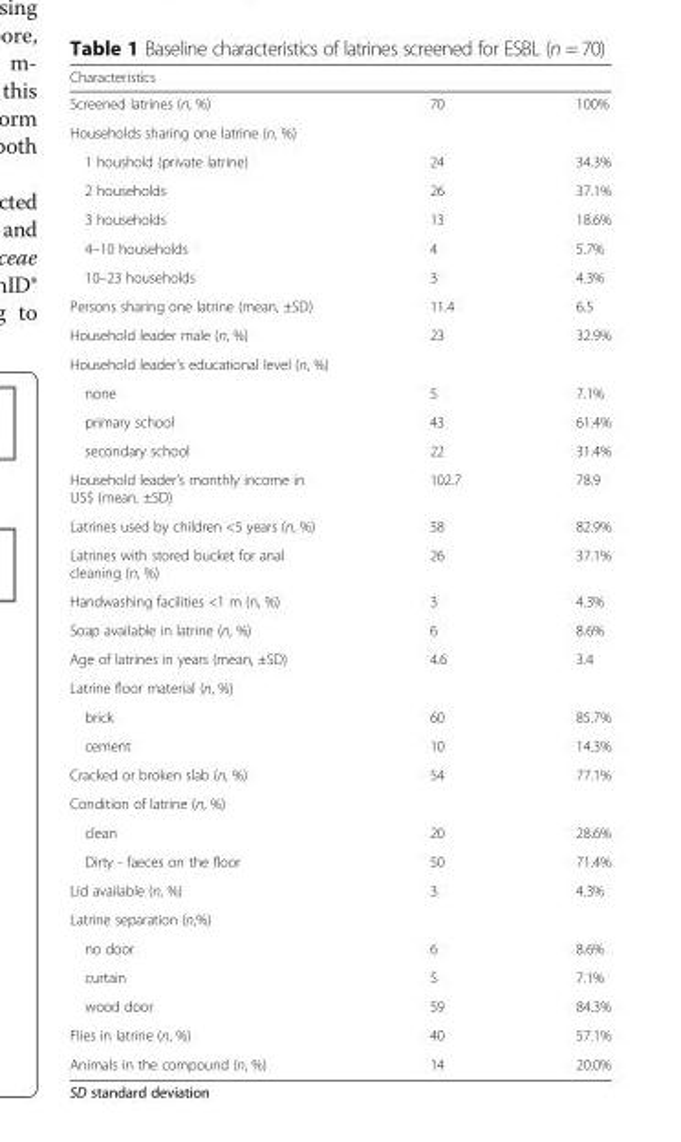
<table><thead><tr><td>Characteristics</td><td></td><td></td></tr></thead><tbody><tr><td>Screened latrines (n, %)</td><td>70</td><td>100%</td></tr><tr><td colspan="3">Households sharing one latrine (n, %)</td></tr><tr><td>1 houshold (private latrine)</td><td>24</td><td>34.3%</td></tr><tr><td>2 households</td><td>26</td><td>37.1%</td></tr><tr><td>3 households</td><td>13</td><td>18.6%</td></tr><tr><td>4–10 households</td><td>4</td><td>5.7%</td></tr><tr><td>10–23 households</td><td>3</td><td>4.3%</td></tr><tr><td>Persons sharing one latrine (mean, ±SD)</td><td>11.4</td><td>6.5</td></tr><tr><td>Household leader male (n, %)</td><td>23</td><td>32.9%</td></tr><tr><td colspan="3">Household leader’s educational level (n, %)</td></tr><tr><td>none</td><td>5</td><td>7.1%</td></tr><tr><td>primary school</td><td>43</td><td>61.4%</td></tr><tr><td>secondary school</td><td>22</td><td>31.4%</td></tr><tr><td>Household leader’s monthly income in US$ (mean, ±SD)</td><td>102.7</td><td>78.9</td></tr><tr><td>Latrines used by children &lt;5 years (n, %)</td><td>58</td><td>82.9%</td></tr><tr><td>Latrines with stored bucket for anal cleaning (n, %)</td><td>26</td><td>37.1%</td></tr><tr><td>Handwashing facilities &lt;1 m (n, %)</td><td>3</td><td>4.3%</td></tr><tr><td>Soap available in latrine (n, %)</td><td>6</td><td>8.6%</td></tr><tr><td>Age of latrines in years (mean, ±SD)</td><td>4.6</td><td>3.4</td></tr><tr><td colspan="3">Latrine floor material (n, %)</td></tr><tr><td>brick</td><td>60</td><td>85.7%</td></tr><tr><td>cement</td><td>10</td><td>14.3%</td></tr><tr><td>Cracked or broken slab (n, %)</td><td>54</td><td>77.1%</td></tr><tr><td colspan="3">Condition of latrine (n, %)</td></tr><tr><td>clean</td><td>20</td><td>28.6%</td></tr><tr><td>Dirty - faeces on the floor</td><td>50</td><td>71.4%</td></tr><tr><td>Lid available (n, %)</td><td>3</td><td>4.3%</td></tr><tr><td colspan="3">Latrine separation (n,%)</td></tr><tr><td>no door</td><td>6</td><td>8.6%</td></tr><tr><td>curtain</td><td>5</td><td>7.1%</td></tr><tr><td>wood door</td><td>59</td><td>84.3%</td></tr><tr><td>Flies in latrine (n, %)</td><td>40</td><td>57.1%</td></tr><tr><td>Animals in the compound (n, %)</td><td>14</td><td>20.0%</td></tr></tbody></table>